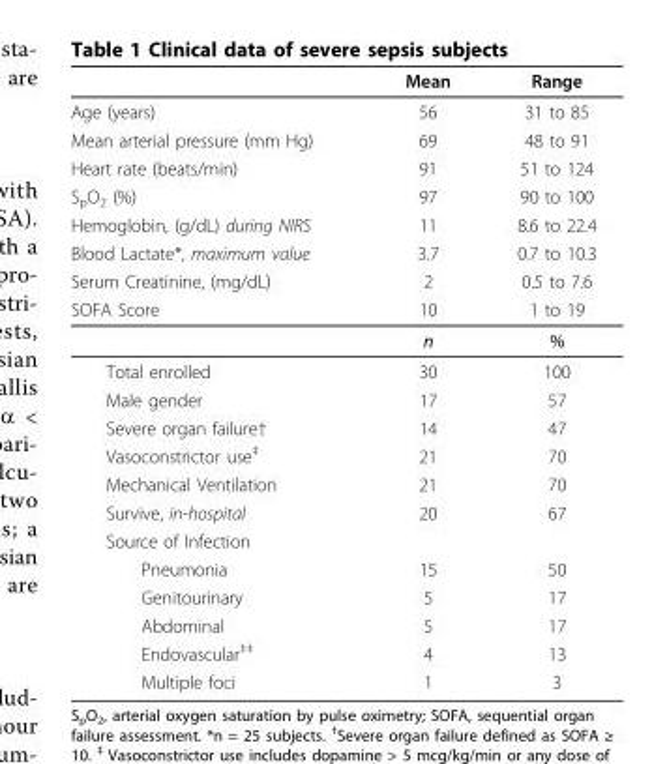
<table><thead><tr><td></td><td>Mean</td><td>Range</td></tr></thead><tbody><tr><td>Age (years)</td><td>56</td><td>31 to 85</td></tr><tr><td>Mean arterial pressure (mm Hg)</td><td>69</td><td>48 to 91</td></tr><tr><td>Heart rate (beats/min)</td><td>91</td><td>51 to 124</td></tr><tr><td>S<sub>p</sub>O<sub>2</sub> (%)</td><td>97</td><td>90 to 100</td></tr><tr><td>Hemoglobin, (g/dL) during NIRS</td><td>11</td><td>8.6 to 22.4</td></tr><tr><td>Blood Lactate*, maximum value</td><td>3.7</td><td>0.7 to 10.3</td></tr><tr><td>Serum Creatinine, (mg/dL)</td><td>2</td><td>0.5 to 7.6</td></tr><tr><td rowspan="2">SOFA Score</td><td>10</td><td>1 to 19</td></tr><tr><td>n</td><td>%</td></tr><tr><td>Total enrolled</td><td>30</td><td>100</td></tr><tr><td>Male gender</td><td>17</td><td>57</td></tr><tr><td>Severe organ failure†</td><td>14</td><td>47</td></tr><tr><td>Vasoconstrictor use<sup>‡</sup></td><td>21</td><td>70</td></tr><tr><td>Mechanical Ventilation</td><td>21</td><td>70</td></tr><tr><td>Survive, in-hospital</td><td>20</td><td>67</td></tr><tr><td colspan="3">Source of Infection</td></tr><tr><td>Pneumonia</td><td>15</td><td>50</td></tr><tr><td>Genitourinary</td><td>5</td><td>17</td></tr><tr><td>Abdominal</td><td>5</td><td>17</td></tr><tr><td>Endovascular<sup>‡‡</sup></td><td>4</td><td>13</td></tr><tr><td>Multiple foci</td><td>1</td><td>3</td></tr></tbody></table>